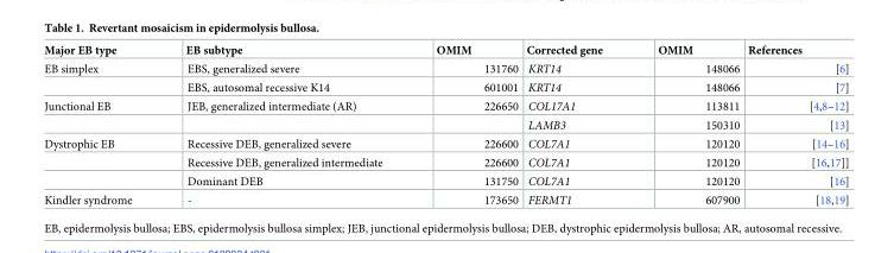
<table><thead><tr><td>Major EB type</td><td>EB subtype</td><td>OMIM</td><td>Corrected gene</td><td>OMIM</td><td>References</td></tr></thead><tbody><tr><td rowspan="2">EB simplex</td><td>EBS, generalized severe</td><td>131760</td><td>KRT14</td><td>148066</td><td>[6]</td></tr><tr><td>EBS, autosomal recessive K14</td><td>601001</td><td>KRT14</td><td>148066</td><td>[7]</td></tr><tr><td rowspan="2">Junctional EB</td><td>JEB, generalized intermediate (AR)</td><td>226650</td><td>COL17A1</td><td>113811</td><td>[4,8–12]</td></tr><tr><td></td><td></td><td>LAMB3</td><td>150310</td><td>[13]</td></tr><tr><td rowspan="3">Dystrophic EB</td><td>Recessive DEB, generalized severe</td><td>226600</td><td>COL7A1</td><td>120120</td><td>[14–16]</td></tr><tr><td>Recessive DEB, generalized intermediate</td><td>226600</td><td>COL7A1</td><td>120120</td><td>[16,17]]</td></tr><tr><td>Dominant DEB</td><td>131750</td><td>COL7A1</td><td>120120</td><td>[16]</td></tr><tr><td>Kindler syndrome</td><td>-</td><td>173650</td><td>FERMT1</td><td>607900</td><td>[18,19]</td></tr></tbody></table>